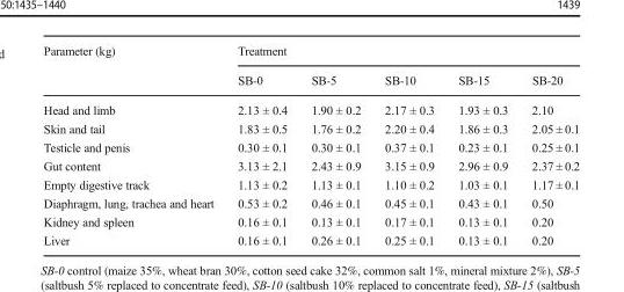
<table><thead><tr><td rowspan="2">Parameter (kg)</td><td colspan="5">Treatment</td></tr><tr><td>SB-0</td><td>SB-5</td><td>SB-10</td><td>SB-15</td><td>SB-20</td></tr></thead><tbody><tr><td>Head and limb</td><td>2.13 ± 0.4</td><td>1.90 ± 0.2</td><td>2.17 ± 0.3</td><td>1.93 ± 0.3</td><td>2.10</td></tr><tr><td>Skin and tail</td><td>1.83 ± 0.5</td><td>1.76 ± 0.2</td><td>2.20 ± 0.4</td><td>1.86 ± 0.3</td><td>2.05 ± 0.1</td></tr><tr><td>Testicle and penis</td><td>0.30 ± 0.1</td><td>0.30 ± 0.1</td><td>0.37 ± 0.1</td><td>0.23 ± 0.1</td><td>0.25 ± 0.1</td></tr><tr><td>Gut content</td><td>3.13 ± 2.1</td><td>2.43 ± 0.9</td><td>3.15 ± 0.9</td><td>2.96 ± 0.9</td><td>2.37 ± 0.2</td></tr><tr><td>Empty digestive track</td><td>1.13 ± 0.2</td><td>1.13 ± 0.1</td><td>1.10 ± 0.2</td><td>1.03 ± 0.1</td><td>1.17 ± 0.1</td></tr><tr><td>Diaphragm, lung, trachea and heart</td><td>0.53 ± 0.2</td><td>0.46 ± 0.1</td><td>0.45 ± 0.1</td><td>0.43 ± 0.1</td><td>0.50</td></tr><tr><td>Kidney and spleen</td><td>0.16 ± 0.1</td><td>0.13 ± 0.1</td><td>0.17 ± 0.1</td><td>0.13 ± 0.1</td><td>0.20</td></tr><tr><td>Liver</td><td>0.16 ± 0.1</td><td>0.26 ± 0.1</td><td>0.25 ± 0.1</td><td>0.13 ± 0.1</td><td>0.20</td></tr></tbody></table>